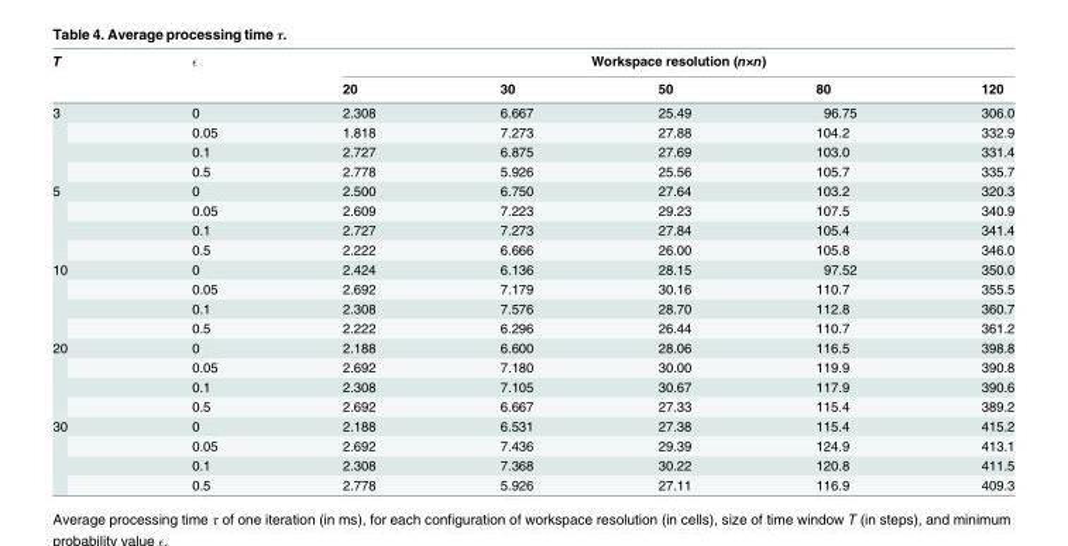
<table><thead><tr><td rowspan="2">T</td><td rowspan="2">ɛ</td><td colspan="5">Workspace resolution (n×n)</td></tr><tr><td>20</td><td>30</td><td>50</td><td>80</td><td>120</td></tr></thead><tbody><tr><td rowspan="4">3</td><td>0</td><td>2.308</td><td>6.667</td><td>25.49</td><td>96.75</td><td>306.0</td></tr><tr><td>0.05</td><td>1.818</td><td>7.273</td><td>27.88</td><td>104.2</td><td>332.9</td></tr><tr><td>0.1</td><td>2.727</td><td>6.875</td><td>27.69</td><td>103.0</td><td>331.4</td></tr><tr><td>0.5</td><td>2.778</td><td>5.926</td><td>25.56</td><td>105.7</td><td>335.7</td></tr><tr><td rowspan="4">5</td><td>0</td><td>2.500</td><td>6.750</td><td>27.64</td><td>103.2</td><td>320.3</td></tr><tr><td>0.05</td><td>2.609</td><td>7.223</td><td>29.23</td><td>107.5</td><td>340.9</td></tr><tr><td>0.1</td><td>2.727</td><td>7.273</td><td>27.84</td><td>105.4</td><td>341.4</td></tr><tr><td>0.5</td><td>2.222</td><td>6.666</td><td>26.00</td><td>105.8</td><td>346.0</td></tr><tr><td rowspan="4">10</td><td>0</td><td>2.424</td><td>6.136</td><td>28.15</td><td>97.52</td><td>350.0</td></tr><tr><td>0.05</td><td>2.692</td><td>7.179</td><td>30.16</td><td>110.7</td><td>355.5</td></tr><tr><td>0.1</td><td>2.308</td><td>7.576</td><td>28.70</td><td>112.8</td><td>360.7</td></tr><tr><td>0.5</td><td>2.222</td><td>6.296</td><td>26.44</td><td>110.7</td><td>361.2</td></tr><tr><td rowspan="4">20</td><td>0</td><td>2.188</td><td>6.600</td><td>28.06</td><td>116.5</td><td>398.8</td></tr><tr><td>0.05</td><td>2.692</td><td>7.180</td><td>30.00</td><td>119.9</td><td>390.8</td></tr><tr><td>0.1</td><td>2.308</td><td>7.105</td><td>30.67</td><td>117.9</td><td>390.6</td></tr><tr><td>0.5</td><td>2.692</td><td>6.667</td><td>27.33</td><td>115.4</td><td>389.2</td></tr><tr><td rowspan="4">30</td><td>0</td><td>2.188</td><td>6.531</td><td>27.38</td><td>115.4</td><td>415.2</td></tr><tr><td>0.05</td><td>2.692</td><td>7.436</td><td>29.39</td><td>124.9</td><td>413.1</td></tr><tr><td>0.1</td><td>2.308</td><td>7.368</td><td>30.22</td><td>120.8</td><td>411.5</td></tr><tr><td>0.5</td><td>2.778</td><td>5.926</td><td>27.11</td><td>116.9</td><td>409.3</td></tr></tbody></table>